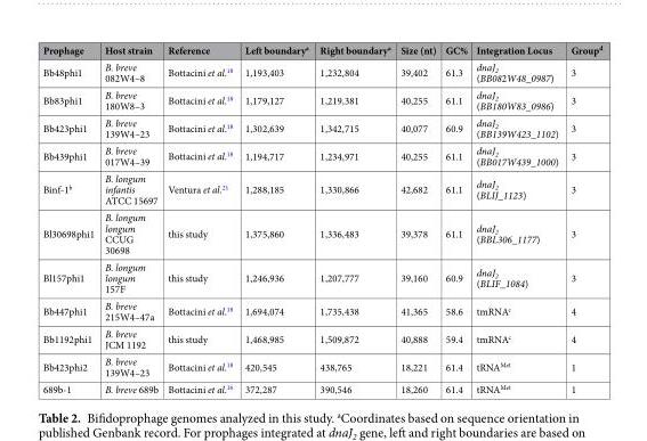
<table><thead><tr><td>Prophage</td><td>Host strain</td><td>Reference</td><td>Left boundary<sup>a</sup></td><td>Right boundary<sup>a</sup></td><td>Size (nt)</td><td>GC%</td><td>Integration Locus</td><td>Group<sup>d</sup></td></tr></thead><tbody><tr><td>Bb48phi1</td><td>B. breve 082W4–8</td><td>Bottacini et al.<sup>18</sup></td><td>1,193,403</td><td>1,232,804</td><td>39,402</td><td>61.3</td><td>dnaJ<sub>2</sub> (BB082W48_0987)</td><td>3</td></tr><tr><td>Bb83phi1</td><td>B. breve 180W8–3</td><td>Bottacini et al.<sup>18</sup></td><td>1,179,127</td><td>1,219,381</td><td>40,255</td><td>61.1</td><td>dnaJ<sub>2</sub> (BB180W83_0986)</td><td>3</td></tr><tr><td>Bb423phi1</td><td>B. breve 139W4–23</td><td>Bottacini et al.<sup>18</sup></td><td>1,302,639</td><td>1,342,715</td><td>40,077</td><td>60.9</td><td>dnaJ<sub>2</sub> (BB139W423_1102)</td><td>3</td></tr><tr><td>Bb439phi1</td><td>B. breve 017W4–39</td><td>Bottacini et al.<sup>18</sup></td><td>1,194,717</td><td>1,234,971</td><td>40,255</td><td>61.1</td><td>dnaJ<sub>2</sub> (BB017W439_1000)</td><td>3</td></tr><tr><td>Binf-1<sup>b</sup></td><td>B. longum infantis ATCC 15697</td><td>Ventura et al.<sup>21</sup></td><td>1,288,185</td><td>1,330,866</td><td>42,682</td><td>61.1</td><td>dnaJ<sub>2</sub> (BLIJ_1123)</td><td>3</td></tr><tr><td>Bl30698phi1</td><td>B. longum longum CCUG 30698</td><td>this study</td><td>1,375,860</td><td>1,336,483</td><td>39,378</td><td>61.1</td><td>dnaJ<sub>2</sub> (BBL306_1177)</td><td>3</td></tr><tr><td>Bl157phi1</td><td>B. longum longum 157F</td><td>this study</td><td>1,246,936</td><td>1,207,777</td><td>39,160</td><td>60.9</td><td>dnaJ<sub>2</sub> (BLIF_1084)</td><td>3</td></tr><tr><td>Bb447phi1</td><td>B. breve 215W4–47a</td><td>Bottacini et al.<sup>18</sup></td><td>1,694,074</td><td>1,735,438</td><td>41,365</td><td>58.6</td><td>tmRNA<sup>c</sup></td><td>4</td></tr><tr><td>Bb1192phi1</td><td>B. breve JCM 1192</td><td>this study</td><td>1,468,985</td><td>1,509,872</td><td>40,888</td><td>59.4</td><td>tmRNA<sup>c</sup></td><td>4</td></tr><tr><td>Bb423phi2</td><td>B. breve 139W4–23</td><td>Bottacini et al.<sup>18</sup></td><td>420,545</td><td>438,765</td><td>18,221</td><td>61.4</td><td>tRNA<sup>Met</sup></td><td>1</td></tr><tr><td>689b-1</td><td>B. breve 689b</td><td>Bottacini et al.<sup>16</sup></td><td>372,287</td><td>390,546</td><td>18,260</td><td>61.4</td><td>tRNA<sup>Met</sup></td><td>1</td></tr></tbody></table>